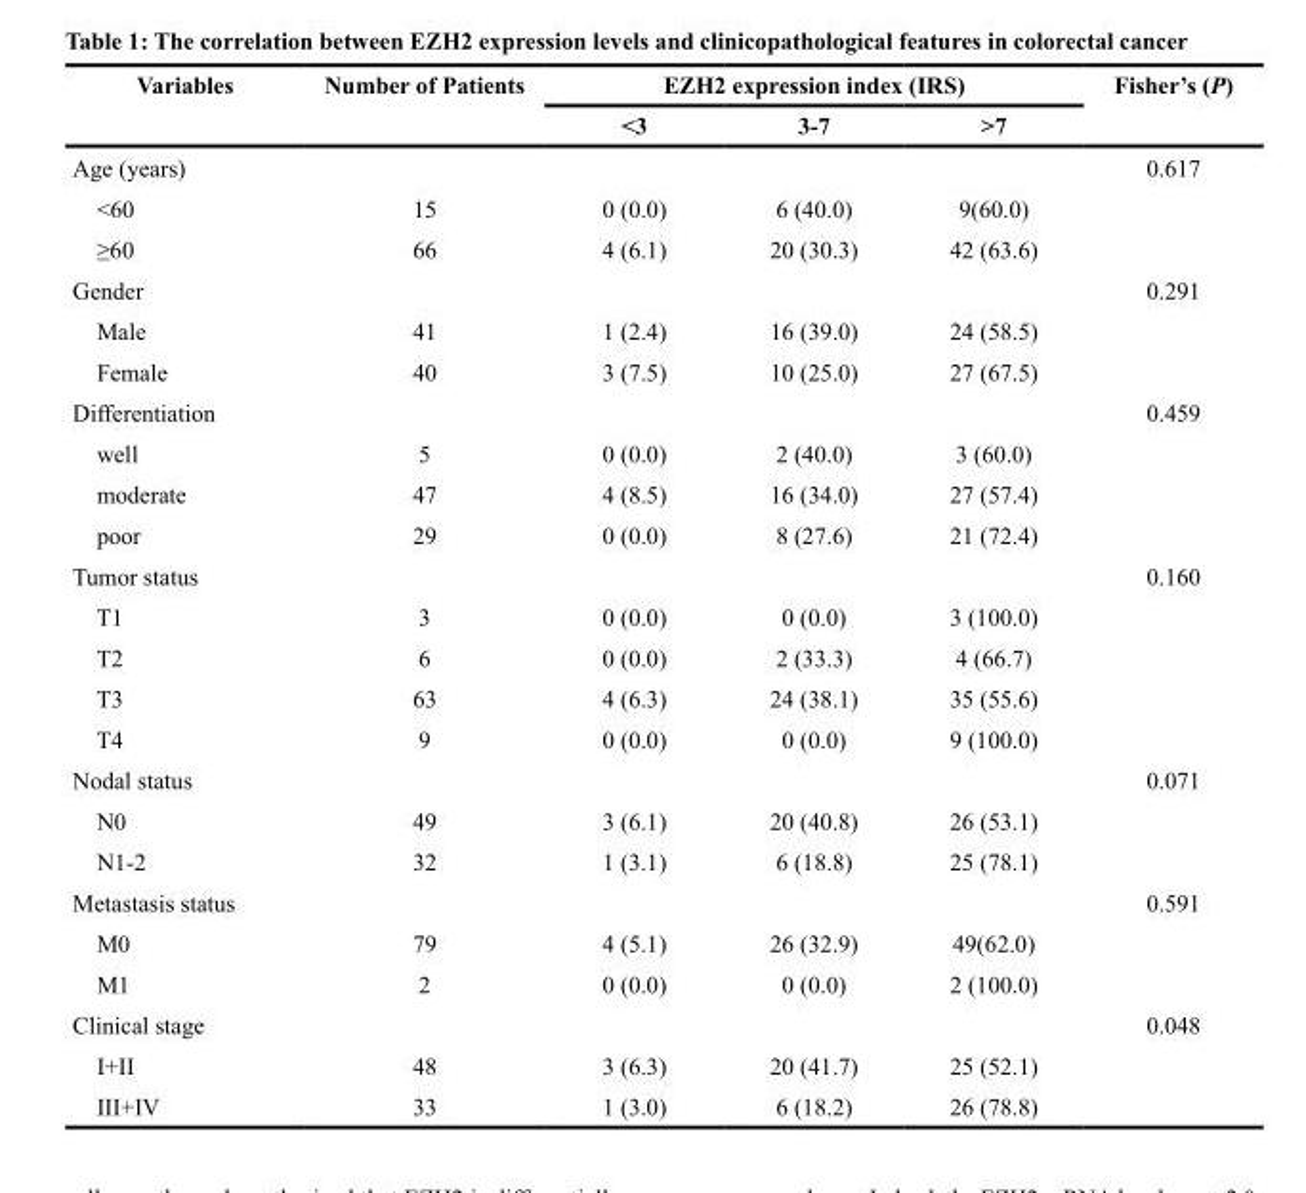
<table><thead><tr><td rowspan="2">Variables</td><td rowspan="2">Number of Patients</td><td colspan="3">EZH2 expression index (IRS)</td><td rowspan="2">Fisher’s (P)</td></tr><tr><td>&lt;3</td><td>3-7</td><td>&gt;7</td></tr></thead><tbody><tr><td>Age (years)</td><td></td><td></td><td></td><td></td><td>0.617</td></tr><tr><td>&lt;60</td><td>15</td><td>0 (0.0)</td><td>6 (40.0)</td><td>9(60.0)</td><td></td></tr><tr><td>≥60</td><td>66</td><td>4 (6.1)</td><td>20 (30.3)</td><td>42 (63.6)</td><td></td></tr><tr><td>Gender</td><td></td><td></td><td></td><td></td><td>0.291</td></tr><tr><td>Male</td><td>41</td><td>1 (2.4)</td><td>16 (39.0)</td><td>24 (58.5)</td><td></td></tr><tr><td>Female</td><td>40</td><td>3 (7.5)</td><td>10 (25.0)</td><td>27 (67.5)</td><td></td></tr><tr><td>Differentiation</td><td></td><td></td><td></td><td></td><td>0.459</td></tr><tr><td>well</td><td>5</td><td>0 (0.0)</td><td>2 (40.0)</td><td>3 (60.0)</td><td></td></tr><tr><td>moderate</td><td>47</td><td>4 (8.5)</td><td>16 (34.0)</td><td>27 (57.4)</td><td></td></tr><tr><td>poor</td><td>29</td><td>0 (0.0)</td><td>8 (27.6)</td><td>21 (72.4)</td><td></td></tr><tr><td>Tumor status</td><td></td><td></td><td></td><td></td><td>0.160</td></tr><tr><td>T1</td><td>3</td><td>0 (0.0)</td><td>0 (0.0)</td><td>3 (100.0)</td><td></td></tr><tr><td>T2</td><td>6</td><td>0 (0.0)</td><td>2 (33.3)</td><td>4 (66.7)</td><td></td></tr><tr><td>T3</td><td>63</td><td>4 (6.3)</td><td>24 (38.1)</td><td>35 (55.6)</td><td></td></tr><tr><td>T4</td><td>9</td><td>0 (0.0)</td><td>0 (0.0)</td><td>9 (100.0)</td><td></td></tr><tr><td>Nodal status</td><td></td><td></td><td></td><td></td><td>0.071</td></tr><tr><td>N0</td><td>49</td><td>3 (6.1)</td><td>20 (40.8)</td><td>26 (53.1)</td><td></td></tr><tr><td>N1-2</td><td>32</td><td>1 (3.1)</td><td>6 (18.8)</td><td>25 (78.1)</td><td></td></tr><tr><td>Metastasis status</td><td></td><td></td><td></td><td></td><td>0.591</td></tr><tr><td>M0</td><td>79</td><td>4 (5.1)</td><td>26 (32.9)</td><td>49(62.0)</td><td></td></tr><tr><td>M1</td><td>2</td><td>0 (0.0)</td><td>0 (0.0)</td><td>2 (100.0)</td><td></td></tr><tr><td>Clinical stage</td><td></td><td></td><td></td><td></td><td>0.048</td></tr><tr><td>I+II</td><td>48</td><td>3 (6.3)</td><td>20 (41.7)</td><td>25 (52.1)</td><td></td></tr><tr><td>III+IV</td><td>33</td><td>1 (3.0)</td><td>6 (18.2)</td><td>26 (78.8)</td><td></td></tr></tbody></table>